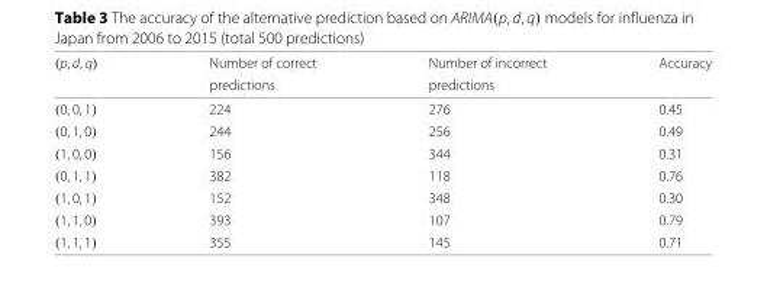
<table><thead><tr><td rowspan="2">(p, d, q)</td><td rowspan="2">Number of correct predictions</td><td rowspan="2">Number of incorrect predictions</td><td rowspan="2">Accuracy</td></tr><tr></tr></thead><tbody><tr><td>(0, 0, 1)</td><td>224</td><td>276</td><td>0.45</td></tr><tr><td>(0, 1, 0)</td><td>244</td><td>256</td><td>0.49</td></tr><tr><td>(1, 0, 0)</td><td>156</td><td>344</td><td>0.31</td></tr><tr><td>(0, 1, 1)</td><td>382</td><td>118</td><td>0.76</td></tr><tr><td>(1, 0, 1)</td><td>152</td><td>348</td><td>0.30</td></tr><tr><td>(1, 1, 0)</td><td>393</td><td>107</td><td>0.79</td></tr><tr><td>(1, 1, 1)</td><td>355</td><td>145</td><td>0.71</td></tr></tbody></table>